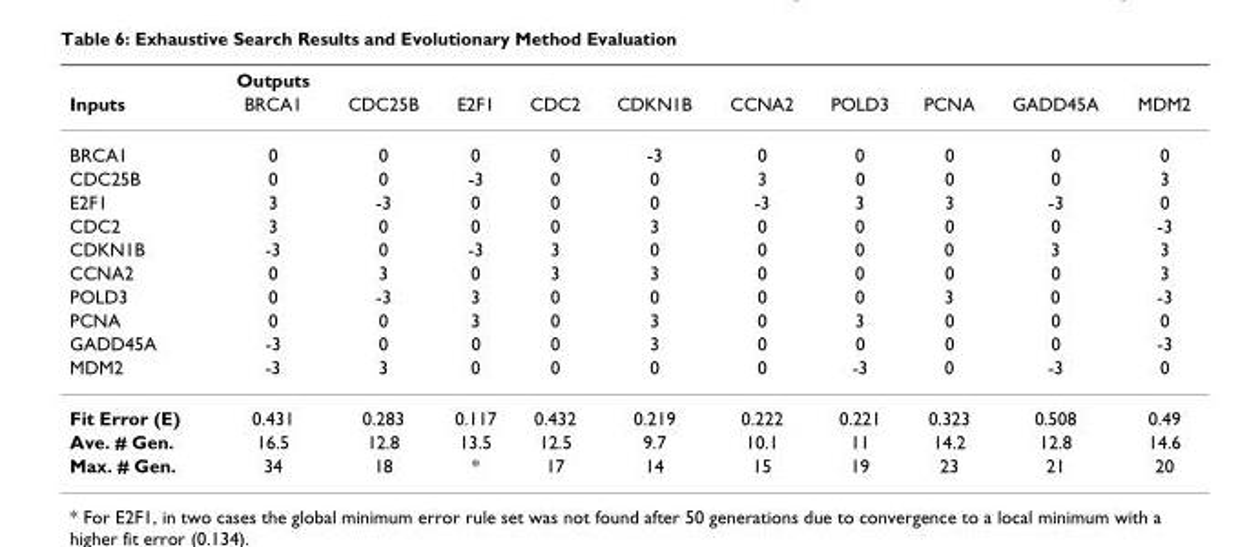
<table><thead><tr><td rowspan="2">Inputs</td><td rowspan="2">Outputs BRCA1</td><td rowspan="2">CDC25B</td><td rowspan="2">E2F1</td><td rowspan="2">CDC2</td><td rowspan="2">CDKN1B</td><td rowspan="2">CCNA2</td><td rowspan="2">POLD3</td><td rowspan="2">PCNA</td><td rowspan="2">GADD45A</td><td rowspan="2">MDM2</td></tr><tr></tr></thead><tbody><tr><td>BRCA1</td><td>0</td><td>0</td><td>0</td><td>0</td><td>-3</td><td>0</td><td>0</td><td>0</td><td>0</td><td>0</td></tr><tr><td>CDC25B</td><td>0</td><td>0</td><td>-3</td><td>0</td><td>0</td><td>3</td><td>0</td><td>0</td><td>0</td><td>3</td></tr><tr><td>E2F1</td><td>3</td><td>-3</td><td>0</td><td>0</td><td>0</td><td>-3</td><td>3</td><td>3</td><td>-3</td><td>0</td></tr><tr><td>CDC2</td><td>3</td><td>0</td><td>0</td><td>0</td><td>3</td><td>0</td><td>0</td><td>0</td><td>0</td><td>-3</td></tr><tr><td>CDKN1B</td><td>-3</td><td>0</td><td>-3</td><td>3</td><td>0</td><td>0</td><td>0</td><td>0</td><td>3</td><td>3</td></tr><tr><td>CCNA2</td><td>0</td><td>3</td><td>0</td><td>3</td><td>3</td><td>0</td><td>0</td><td>0</td><td>0</td><td>3</td></tr><tr><td>POLD3</td><td>0</td><td>-3</td><td>3</td><td>0</td><td>0</td><td>0</td><td>0</td><td>3</td><td>0</td><td>-3</td></tr><tr><td>PCNA</td><td>0</td><td>0</td><td>3</td><td>0</td><td>3</td><td>0</td><td>3</td><td>0</td><td>0</td><td>0</td></tr><tr><td>GADD45A</td><td>-3</td><td>0</td><td>0</td><td>0</td><td>3</td><td>0</td><td>0</td><td>0</td><td>0</td><td>-3</td></tr><tr><td>MDM2</td><td>-3</td><td>3</td><td>0</td><td>0</td><td>0</td><td>0</td><td>-3</td><td>0</td><td>-3</td><td>0</td></tr><tr><td>Fit Error (E)</td><td>0.431</td><td>0.283</td><td>0.117</td><td>0.432</td><td>0.219</td><td>0.222</td><td>0.221</td><td>0.323</td><td>0.508</td><td>0.49</td></tr><tr><td>Ave. # Gen.</td><td>16.5</td><td>12.8</td><td>13.5</td><td>12.5</td><td>9.7</td><td>10.1</td><td>11</td><td>14.2</td><td>12.8</td><td>14.6</td></tr><tr><td>Max. # Gen.</td><td>34</td><td>18</td><td>*</td><td>17</td><td>14</td><td>15</td><td>19</td><td>23</td><td>21</td><td>20</td></tr></tbody></table>